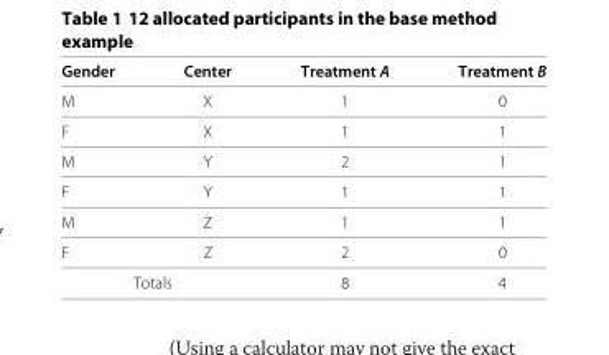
<table><thead><tr><td>Gender</td><td>Center</td><td>Treatment A</td><td>Treatment B</td></tr></thead><tbody><tr><td>M</td><td>X</td><td>1</td><td>0</td></tr><tr><td>F</td><td>X</td><td>1</td><td>1</td></tr><tr><td>M</td><td>Y</td><td>2</td><td>1</td></tr><tr><td>F</td><td>Y</td><td>1</td><td>1</td></tr><tr><td>M</td><td>Z</td><td>1</td><td>1</td></tr><tr><td>F</td><td>Z</td><td>2</td><td>0</td></tr><tr><td colspan="2">Totals</td><td>8</td><td>4</td></tr></tbody></table>